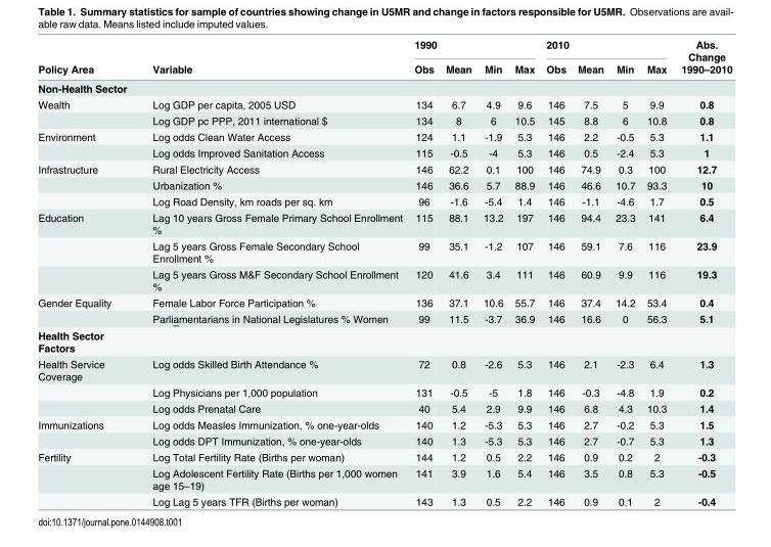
<table><thead><tr><td rowspan="2">Policy Area</td><td rowspan="2">Variable</td><td colspan="4">1990</td><td colspan="4">2010</td><td rowspan="2">Abs. Change 1990–2010</td></tr><tr><td>Obs</td><td>Mean</td><td>Min</td><td>Max</td><td>Obs</td><td>Mean</td><td>Min</td><td>Max</td></tr></thead><tbody><tr><td colspan="11">Non-Health Sector</td></tr><tr><td rowspan="2">Wealth</td><td>Log GDP per capita, 2005 USD</td><td>134</td><td>6.7</td><td>4.9</td><td>9.6</td><td>146</td><td>7.5</td><td>5</td><td>9.9</td><td>0.8</td></tr><tr><td>Log GDP pc PPP, 2011 international $</td><td>134</td><td>8</td><td>6</td><td>10.5</td><td>145</td><td>8.8</td><td>6</td><td>10.8</td><td>0.8</td></tr><tr><td rowspan="2">Environment</td><td>Log odds Clean Water Access</td><td>124</td><td>1.1</td><td>-1.9</td><td>5.3</td><td>146</td><td>2.2</td><td>-0.5</td><td>5.3</td><td>1.1</td></tr><tr><td>Log odds Improved Sanitation Access</td><td>115</td><td>-0.5</td><td>-4</td><td>5.3</td><td>146</td><td>0.5</td><td>-2.4</td><td>5.3</td><td>1</td></tr><tr><td rowspan="3">Infrastructure</td><td>Rural Electricity Access</td><td>146</td><td>62.2</td><td>0.1</td><td>100</td><td>146</td><td>74.9</td><td>0.3</td><td>100</td><td>12.7</td></tr><tr><td>Urbanization %</td><td>146</td><td>36.6</td><td>5.7</td><td>88.9</td><td>146</td><td>46.6</td><td>10.7</td><td>93.3</td><td>10</td></tr><tr><td>Log Road Density, km roads per sq. km</td><td>96</td><td>-1.6</td><td>-5.4</td><td>1.4</td><td>146</td><td>-1.1</td><td>-4.6</td><td>1.7</td><td>0.5</td></tr><tr><td rowspan="3">Education</td><td>Lag 10 years Gross Female Primary School Enrollment %</td><td>115</td><td>88.1</td><td>13.2</td><td>197</td><td>146</td><td>94.4</td><td>23.3</td><td>141</td><td>6.4</td></tr><tr><td>Lag 5 years Gross Female Secondary School Enrollment %</td><td>99</td><td>35.1</td><td>-1.2</td><td>107</td><td>146</td><td>59.1</td><td>7.6</td><td>116</td><td>23.9</td></tr><tr><td>Lag 5 years Gross M&amp;F Secondary School Enrollment %</td><td>120</td><td>41.6</td><td>3.4</td><td>111</td><td>146</td><td>60.9</td><td>9.9</td><td>116</td><td>19.3</td></tr><tr><td rowspan="2">Gender Equality</td><td>Female Labor Force Participation %</td><td>136</td><td>37.1</td><td>10.6</td><td>55.7</td><td>146</td><td>37.4</td><td>14.2</td><td>53.4</td><td>0.4</td></tr><tr><td>Parliamentarians in National Legislatures % Women</td><td>99</td><td>11.5</td><td>-3.7</td><td>36.9</td><td>146</td><td>16.6</td><td>0</td><td>56.3</td><td>5.1</td></tr><tr><td colspan="11">Health Sector Factors</td></tr><tr><td rowspan="3">Health Service Coverage</td><td>Log odds Skilled Birth Attendance %</td><td>72</td><td>0.8</td><td>-2.6</td><td>5.3</td><td>146</td><td>2.1</td><td>-2.3</td><td>6.4</td><td>1.3</td></tr><tr><td>Log Physicians per 1,000 population</td><td>131</td><td>-0.5</td><td>-5</td><td>1.8</td><td>146</td><td>-0.3</td><td>-4.8</td><td>1.9</td><td>0.2</td></tr><tr><td>Log odds Prenatal Care</td><td>40</td><td>5.4</td><td>2.9</td><td>9.9</td><td>146</td><td>6.8</td><td>4.3</td><td>10.3</td><td>1.4</td></tr><tr><td rowspan="2">Immunizations</td><td>Log odds Measles Immunization, % one-year-olds</td><td>140</td><td>1.2</td><td>-5.3</td><td>5.3</td><td>146</td><td>2.7</td><td>-0.2</td><td>5.3</td><td>1.5</td></tr><tr><td>Log odds DPT Immunization, % one-year-olds</td><td>140</td><td>1.3</td><td>-5.3</td><td>5.3</td><td>146</td><td>2.7</td><td>-0.7</td><td>5.3</td><td>1.3</td></tr><tr><td rowspan="3">Fertility</td><td>Log Total Fertility Rate (Births per woman)</td><td>144</td><td>1.2</td><td>0.5</td><td>2.2</td><td>146</td><td>0.9</td><td>0.2</td><td>2</td><td>-0.3</td></tr><tr><td>Log Adolescent Fertility Rate (Births per 1,000 women age 15–19)</td><td>141</td><td>3.9</td><td>1.6</td><td>5.4</td><td>146</td><td>3.5</td><td>0.8</td><td>5.3</td><td>-0.5</td></tr><tr><td>Log Lag 5 years TFR (Births per woman)</td><td>143</td><td>1.3</td><td>0.5</td><td>2.2</td><td>146</td><td>0.9</td><td>0.1</td><td>2</td><td>-0.4</td></tr></tbody></table>